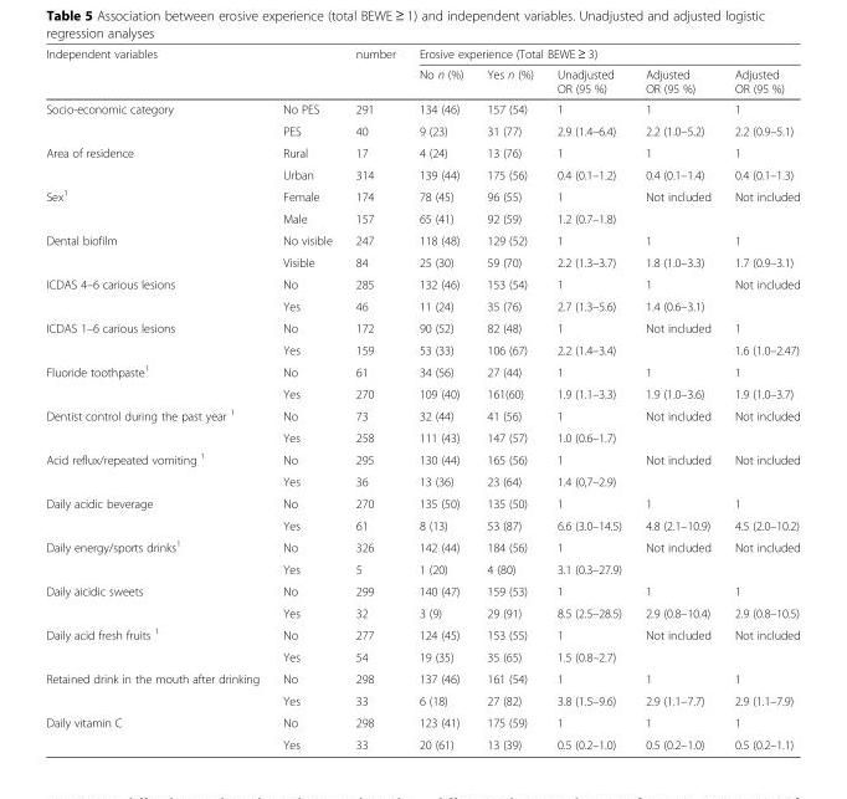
<table><thead><tr><td rowspan="2" colspan="2">Independent variables</td><td rowspan="3">number 291</td><td colspan="5">Erosive experience (Total BEWE ≥ 3)</td></tr><tr><td rowspan="2">No n (%) 134 (46)</td><td rowspan="2">Yes n (%) 157 (54)</td><td rowspan="2">Unadjusted OR (95 %) 1</td><td rowspan="2">Adjusted OR (95 %) 1</td><td rowspan="2">Adjusted OR (95 %) 1</td></tr><tr><td>Socio-economic category</td><td>No PES</td></tr></thead><tbody><tr><td></td><td>PES</td><td>40</td><td>9 (23)</td><td>31 (77)</td><td>2.9 (1.4–6.4)</td><td>2.2 (1.0–5.2)</td><td>2.2 (0.9–5.1)</td></tr><tr><td rowspan="2">Area of residence</td><td>Rural</td><td>17</td><td>4 (24)</td><td>13 (76)</td><td>1</td><td>1</td><td>1</td></tr><tr><td>Urban</td><td>314</td><td>139 (44)</td><td>175 (56)</td><td>0.4 (0.1–1.2)</td><td>0.4 (0.1–1.4)</td><td>0.4 (0.1–1.3)</td></tr><tr><td rowspan="2">Sex<sup>1</sup></td><td>Female</td><td>174</td><td>78 (45)</td><td>96 (55)</td><td>1</td><td>Not included</td><td>Not included</td></tr><tr><td>Male</td><td>157</td><td>65 (41)</td><td>92 (59)</td><td>1.2 (0.7–1.8)</td><td></td><td></td></tr><tr><td rowspan="2">Dental biofilm</td><td>No visible</td><td>247</td><td>118 (48)</td><td>129 (52)</td><td>1</td><td>1</td><td>1</td></tr><tr><td>Visible</td><td>84</td><td>25 (30)</td><td>59 (70)</td><td>2.2 (1.3–3.7)</td><td>1.8 (1.0–3.3)</td><td>1.7 (0.9–3.1)</td></tr><tr><td rowspan="2">ICDAS 4–6 carious lesions</td><td>No</td><td>285</td><td>132 (46)</td><td>153 (54)</td><td>1</td><td>1</td><td>Not included</td></tr><tr><td>Yes</td><td>46</td><td>11 (24)</td><td>35 (76)</td><td>2.7 (1.3–5.6)</td><td>1.4 (0.6–3.1)</td><td></td></tr><tr><td rowspan="2">ICDAS 1–6 carious lesions</td><td>No</td><td>172</td><td>90 (52)</td><td>82 (48)</td><td>1</td><td>Not included</td><td>1</td></tr><tr><td>Yes</td><td>159</td><td>53 (33)</td><td>106 (67)</td><td>2.2 (1.4–3.4)</td><td></td><td>1.6 (1.0–2.47)</td></tr><tr><td rowspan="2">Fluoride toothpaste<sup>1</sup></td><td>No</td><td>61</td><td>34 (56)</td><td>27 (44)</td><td>1</td><td>1</td><td>1</td></tr><tr><td>Yes</td><td>270</td><td>109 (40)</td><td>161(60)</td><td>1.9 (1.1–3.3)</td><td>1.9 (1.0–3.6)</td><td>1.9 (1.0–3.7)</td></tr><tr><td rowspan="2">Dentist control during the past year <sup>1</sup></td><td>No</td><td>73</td><td>32 (44)</td><td>41 (56)</td><td>1</td><td>Not included</td><td>Not included</td></tr><tr><td>Yes</td><td>258</td><td>111 (43)</td><td>147 (57)</td><td>1.0 (0.6–1.7)</td><td></td><td></td></tr><tr><td rowspan="2">Acid reflux/repeated vomiting <sup>1</sup></td><td>No</td><td>295</td><td>130 (44)</td><td>165 (56)</td><td>1</td><td>Not included</td><td>Not included</td></tr><tr><td>Yes</td><td>36</td><td>13 (36)</td><td>23 (64)</td><td>1.4 (0,7–2.9)</td><td></td><td></td></tr><tr><td rowspan="2">Daily acidic beverage</td><td>No</td><td>270</td><td>135 (50)</td><td>135 (50)</td><td>1</td><td>1</td><td>1</td></tr><tr><td>Yes</td><td>61</td><td>8 (13)</td><td>53 (87)</td><td>6.6 (3.0–14.5)</td><td>4.8 (2.1–10.9)</td><td>4.5 (2.0–10.2)</td></tr><tr><td rowspan="2">Daily energy/sports drinks<sup>1</sup></td><td>No</td><td>326</td><td>142 (44)</td><td>184 (56)</td><td>1</td><td>Not included</td><td>Not included</td></tr><tr><td>Yes</td><td>5</td><td>1 (20)</td><td>4 (80)</td><td>3.1 (0.3–27.9)</td><td></td><td></td></tr><tr><td rowspan="2">Daily aicidic sweets</td><td>No</td><td>299</td><td>140 (47)</td><td>159 (53)</td><td>1</td><td>1</td><td>1</td></tr><tr><td>Yes</td><td>32</td><td>3 (9)</td><td>29 (91)</td><td>8.5 (2.5–28.5)</td><td>2.9 (0.8–10.4)</td><td>2.9 (0.8–10.5)</td></tr><tr><td rowspan="2">Daily acid fresh fruits <sup>1</sup></td><td>No</td><td>277</td><td>124 (45)</td><td>153 (55)</td><td>1</td><td>Not included</td><td>Not included</td></tr><tr><td>Yes</td><td>54</td><td>19 (35)</td><td>35 (65)</td><td>1.5 (0.8–2.7)</td><td></td><td></td></tr><tr><td rowspan="2">Retained drink in the mouth after drinking</td><td>No</td><td>298</td><td>137 (46)</td><td>161 (54)</td><td>1</td><td>1</td><td>1</td></tr><tr><td>Yes</td><td>33</td><td>6 (18)</td><td>27 (82)</td><td>3.8 (1.5–9.6)</td><td>2.9 (1.1–7.7)</td><td>2.9 (1.1–7.9)</td></tr><tr><td rowspan="2">Daily vitamin C</td><td>No</td><td>298</td><td>123 (41)</td><td>175 (59)</td><td>1</td><td>1</td><td>1</td></tr><tr><td>Yes</td><td>33</td><td>20 (61)</td><td>13 (39)</td><td>0.5 (0.2–1.0)</td><td>0.5 (0.2–1.0)</td><td>0.5 (0.2–1.1)</td></tr></tbody></table>